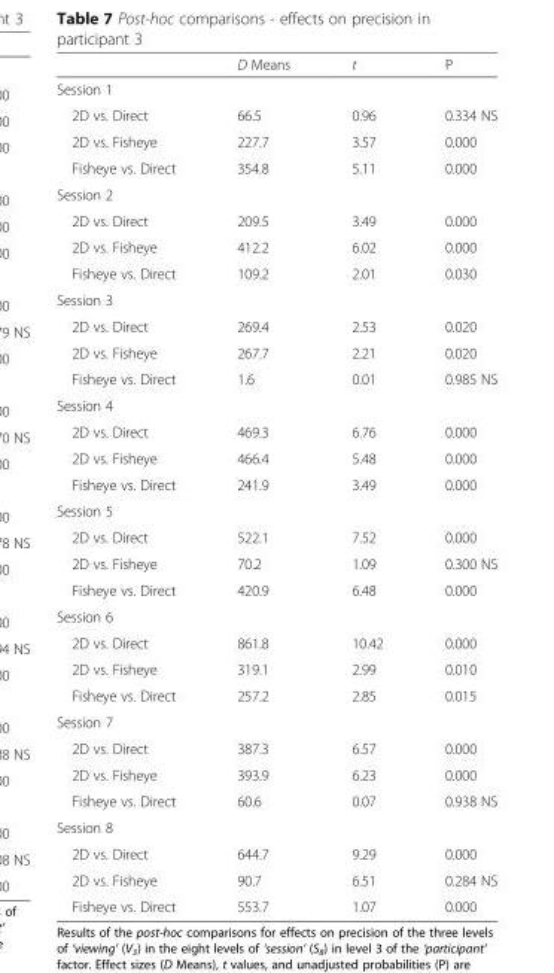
<table><thead><tr><td></td><td>D Means</td><td>t</td><td>P</td></tr></thead><tbody><tr><td colspan="4">Session 1</td></tr><tr><td>2D vs. Direct</td><td>66.5</td><td>0.96</td><td>0.334 NS</td></tr><tr><td>2D vs. Fisheye</td><td>227.7</td><td>3.57</td><td>0.000</td></tr><tr><td>Fisheye vs. Direct</td><td>354.8</td><td>5.11</td><td>0.000</td></tr><tr><td colspan="4">Session 2</td></tr><tr><td>2D vs. Direct</td><td>209.5</td><td>3.49</td><td>0.000</td></tr><tr><td>2D vs. Fisheye</td><td>412.2</td><td>6.02</td><td>0.000</td></tr><tr><td>Fisheye vs. Direct</td><td>109.2</td><td>2.01</td><td>0.030</td></tr><tr><td colspan="4">Session 3</td></tr><tr><td>2D vs. Direct</td><td>269.4</td><td>2.53</td><td>0.020</td></tr><tr><td>2D vs. Fisheye</td><td>267.7</td><td>2.21</td><td>0.020</td></tr><tr><td>Fisheye vs. Direct</td><td>1.6</td><td>0.01</td><td>0.985 NS</td></tr><tr><td colspan="4">Session 4</td></tr><tr><td>2D vs. Direct</td><td>469.3</td><td>6.76</td><td>0.000</td></tr><tr><td>2D vs. Fisheye</td><td>466.4</td><td>5.48</td><td>0.000</td></tr><tr><td>Fisheye vs. Direct</td><td>241.9</td><td>3.49</td><td>0.000</td></tr><tr><td colspan="4">Session 5</td></tr><tr><td>2D vs. Direct</td><td>522.1</td><td>7.52</td><td>0.000</td></tr><tr><td>2D vs. Fisheye</td><td>70.2</td><td>1.09</td><td>0.300 NS</td></tr><tr><td>Fisheye vs. Direct</td><td>420.9</td><td>6.48</td><td>0.000</td></tr><tr><td colspan="4">Session 6</td></tr><tr><td>2D vs. Direct</td><td>861.8</td><td>10.42</td><td>0.000</td></tr><tr><td>2D vs. Fisheye</td><td>319.1</td><td>2.99</td><td>0.010</td></tr><tr><td>Fisheye vs. Direct</td><td>257.2</td><td>2.85</td><td>0.015</td></tr><tr><td colspan="4">Session 7</td></tr><tr><td>2D vs. Direct</td><td>387.3</td><td>6.57</td><td>0.000</td></tr><tr><td>2D vs. Fisheye</td><td>393.9</td><td>6.23</td><td>0.000</td></tr><tr><td>Fisheye vs. Direct</td><td>60.6</td><td>0.07</td><td>0.938 NS</td></tr><tr><td colspan="4">Session 8</td></tr><tr><td>2D vs. Direct</td><td>644.7</td><td>9.29</td><td>0.000</td></tr><tr><td>2D vs. Fisheye</td><td>90.7</td><td>6.51</td><td>0.284 NS</td></tr><tr><td>Fisheye vs. Direct</td><td>553.7</td><td>1.07</td><td>0.000</td></tr></tbody></table>